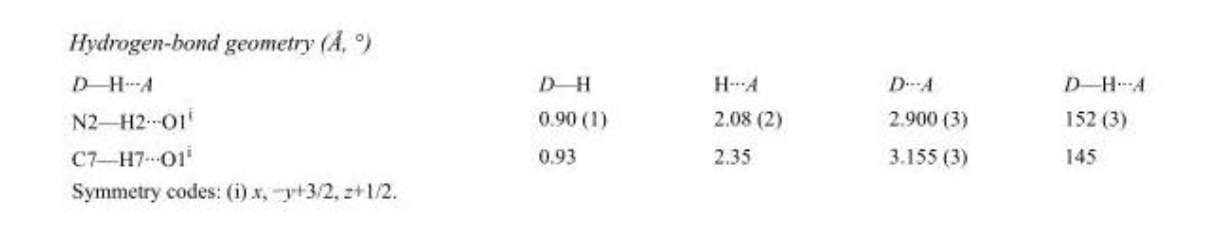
<table><tbody><tr><td>D—H···A</td><td>D—H</td><td>H···A</td><td>D···A</td><td>D—H···A</td></tr><tr><td>N2—H2···O1<sup>i</sup></td><td>0.90 (1)</td><td>2.08 (2)</td><td>2.900 (3)</td><td>152 (3)</td></tr><tr><td>C7—H7···O1<sup>i</sup></td><td>0.93</td><td>2.35</td><td>3.155 (3)</td><td>145</td></tr></tbody></table>